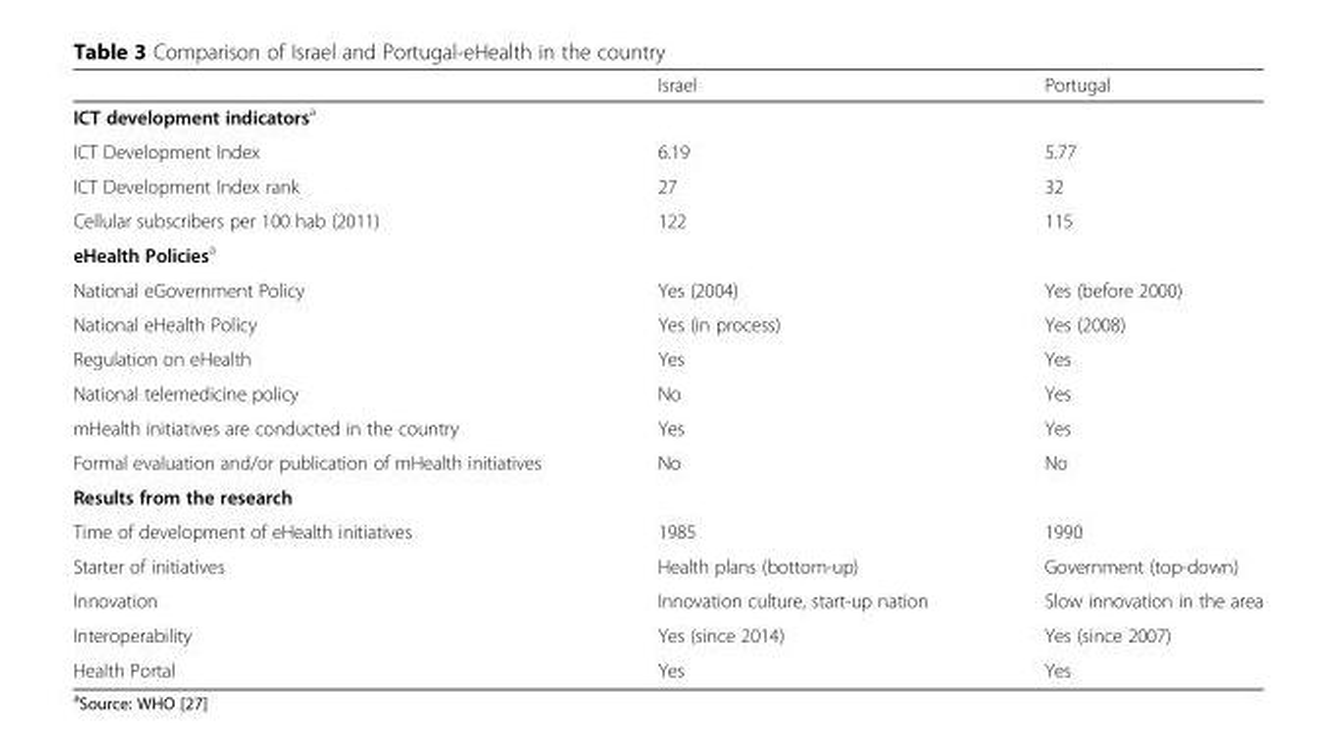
<table><thead><tr><td></td><td>Israel</td><td>Portugal</td></tr></thead><tbody><tr><td colspan="3">ICT development indicators<sup>a</sup></td></tr><tr><td>ICT Development Index</td><td>6.19</td><td>5.77</td></tr><tr><td>ICT Development Index rank</td><td>27</td><td>32</td></tr><tr><td>Cellular subscribers per 100 hab (2011)</td><td>122</td><td>115</td></tr><tr><td colspan="3">eHealth Policies<sup>a</sup></td></tr><tr><td>National eGovernment Policy</td><td>Yes (2004)</td><td>Yes (before 2000)</td></tr><tr><td>National eHealth Policy</td><td>Yes (in process)</td><td>Yes (2008)</td></tr><tr><td>Regulation on eHealth</td><td>Yes</td><td>Yes</td></tr><tr><td>National telemedicine policy</td><td>No</td><td>Yes</td></tr><tr><td>mHealth initiatives are conducted in the country</td><td>Yes</td><td>Yes</td></tr><tr><td>Formal evaluation and/or publication of mHealth initiatives</td><td>No</td><td>No</td></tr><tr><td colspan="3">Results from the research</td></tr><tr><td>Time of development of eHealth initiatives</td><td>1985</td><td>1990</td></tr><tr><td>Starter of initiatives</td><td>Health plans (bottom-up)</td><td>Government (top-down)</td></tr><tr><td>Innovation</td><td>Innovation culture, start-up nation</td><td>Slow innovation in the area</td></tr><tr><td>Interoperability</td><td>Yes (since 2014)</td><td>Yes (since 2007)</td></tr><tr><td>Health Portal</td><td>Yes</td><td>Yes</td></tr></tbody></table>